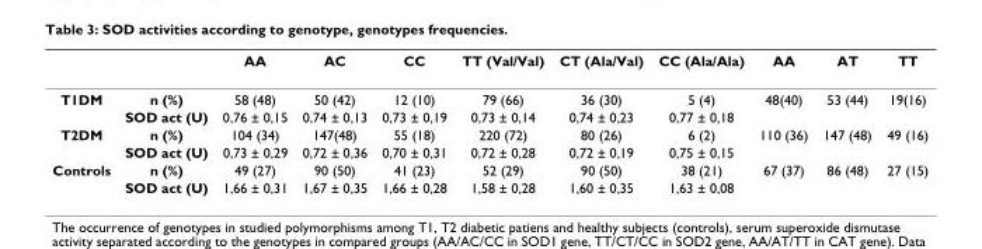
<table><thead><tr><td></td><td></td><td>AA</td><td>AC</td><td>CC</td><td>TT (Val/Val)</td><td>CT (Ala/Val)</td><td>CC (Ala/Ala)</td><td>AA</td><td>AT</td><td>TT</td></tr></thead><tbody><tr><td rowspan="2">T1DM</td><td>n (%)</td><td>58 (48)</td><td>50 (42)</td><td>12 (10)</td><td>79 (66)</td><td>36 (30)</td><td>5 (4)</td><td>48(40)</td><td>53 (44)</td><td>19(16)</td></tr><tr><td>SOD act (U)</td><td>0,76 ± 0,15</td><td>0,74 ± 0,13</td><td>0,73 ± 0,19</td><td>0,73 ± 0,14</td><td>0,74 ± 0,23</td><td>0,77 ± 0,18</td><td></td><td></td><td></td></tr><tr><td rowspan="2">T2DM</td><td>n (%)</td><td>104 (34)</td><td>147(48)</td><td>55 (18)</td><td>220 (72)</td><td>80 (26)</td><td>6 (2)</td><td>110 (36)</td><td>147 (48)</td><td>49 (16)</td></tr><tr><td>SOD act (U)</td><td>0,73 ± 0,29</td><td>0,72 ± 0,36</td><td>0,70 ± 0,31</td><td>0,72 ± 0,28</td><td>0,72 ± 0,19</td><td>0,75 ± 0,15</td><td></td><td></td><td></td></tr><tr><td rowspan="2">Controls</td><td>n (%)</td><td>49 (27)</td><td>90 (50)</td><td>41 (23)</td><td>52 (29)</td><td>90 (50)</td><td>38 (21)</td><td>67 (37)</td><td>86 (48)</td><td>27 (15)</td></tr><tr><td>SOD act (U)</td><td>1,66 ± 0,31</td><td>1,67 ± 0,35</td><td>1,66 ± 0,28</td><td>1,58 ± 0,28</td><td>1,60 ± 0,35</td><td>1,63 ± 0,08</td><td></td><td></td><td></td></tr></tbody></table>